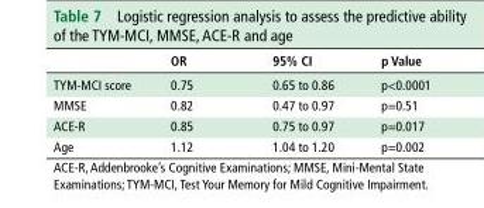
<table><thead><tr><td></td><td>or</td><td>95% cI</td><td>p Value</td></tr></thead><tbody><tr><td>TYM-MCI score</td><td>0.75</td><td>0.65 to 0.86</td><td>p&lt;0.0001</td></tr><tr><td>MMSE</td><td>0.82</td><td>0.47 to 0.97</td><td>p=0.51</td></tr><tr><td>ACE-R</td><td>0.85</td><td>0.75 to 0.97</td><td>p=0.017</td></tr><tr><td>Age</td><td>1.12</td><td>1.04 to 1.20</td><td>p=0.002</td></tr></tbody></table>